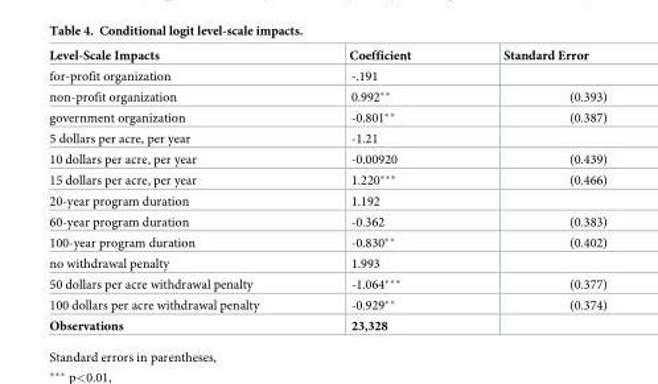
<table><thead><tr><td>Level-Scale Impacts</td><td>Coefficient</td><td>Standard Error</td></tr></thead><tbody><tr><td>for-profit organization</td><td>-.191</td><td></td></tr><tr><td>non-profit organization</td><td>0.992**</td><td>(0.393)</td></tr><tr><td>government organization</td><td>-0.801**</td><td>(0.387)</td></tr><tr><td>5 dollars per acre, per year</td><td>-1.21</td><td></td></tr><tr><td>10 dollars per acre, per year</td><td>-0.00920</td><td>(0.439)</td></tr><tr><td>15 dollars per acre, per year</td><td>1.220***</td><td>(0.466)</td></tr><tr><td>20-year program duration</td><td>1.192</td><td></td></tr><tr><td>60-year program duration</td><td>-0.362</td><td>(0.383)</td></tr><tr><td>100-year program duration</td><td>-0.830**</td><td>(0.402)</td></tr><tr><td>no withdrawal penalty</td><td>1.993</td><td></td></tr><tr><td>50 dollars per acre withdrawal penalty</td><td>-1.064***</td><td>(0.377)</td></tr><tr><td>100 dollars per acre withdrawal penalty</td><td>-0.929**</td><td>(0.374)</td></tr><tr><td>Observations</td><td>23,328</td><td></td></tr></tbody></table>